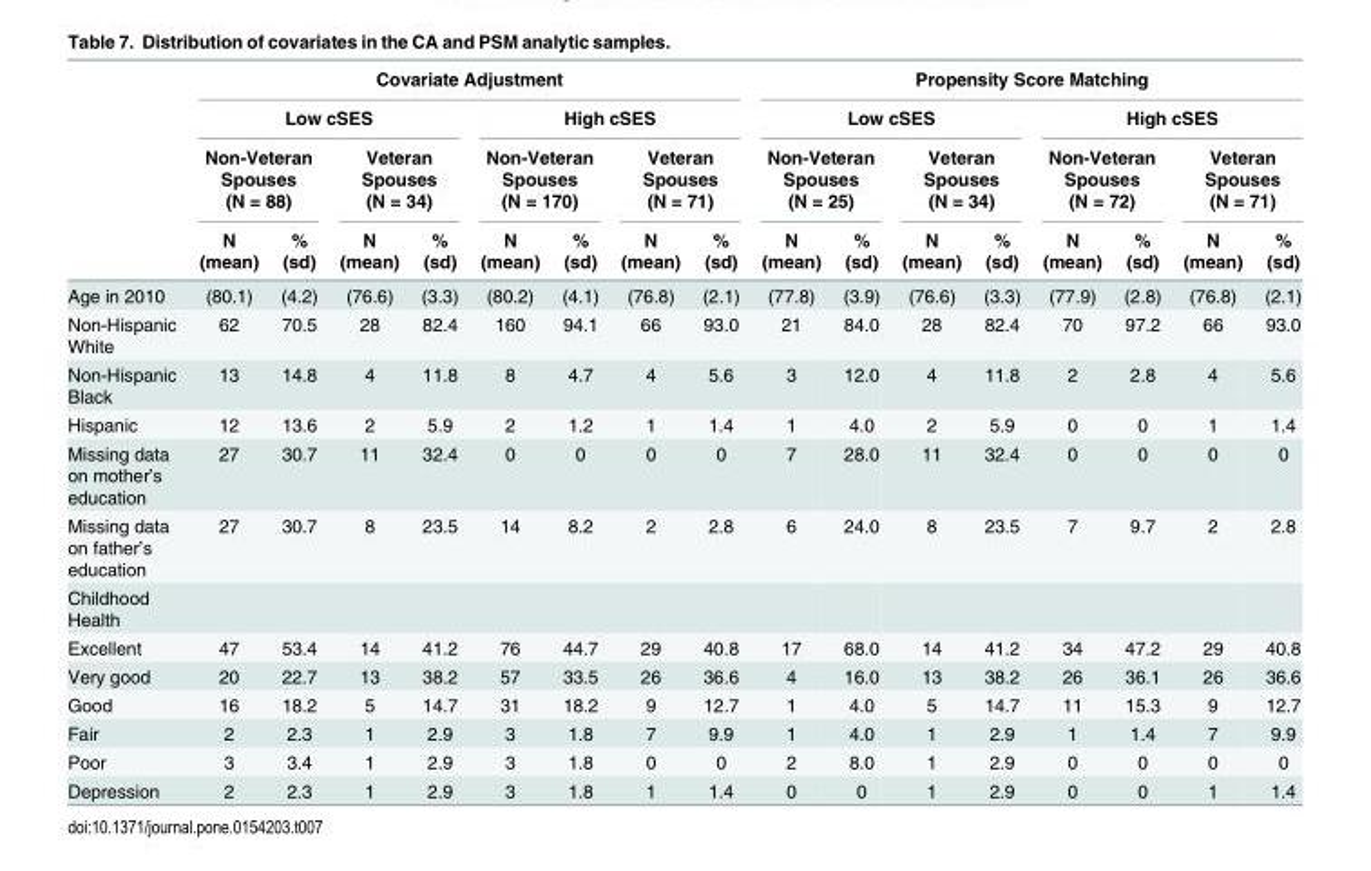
<table><thead><tr><td rowspan="4"></td><td colspan="8">Covariate Adjustment</td><td colspan="8">Propensity Score Matching</td></tr><tr><td colspan="4">Low cSES</td><td colspan="4">High cSES</td><td colspan="4">Low cSES</td><td colspan="4">High cSES</td></tr><tr><td colspan="2">Non-Veteran Spouses (N = 88)</td><td colspan="2">Veteran Spouses (N = 34)</td><td colspan="2">Non-Veteran Spouses (N = 170)</td><td colspan="2">Veteran Spouses (N = 71)</td><td colspan="2">Non-Veteran Spouses (N = 25)</td><td colspan="2">Veteran Spouses (N = 34)</td><td colspan="2">Non-Veteran Spouses (N = 72)</td><td colspan="2">Veteran Spouses (N = 71)</td></tr><tr><td>N (mean)</td><td>% (sd)</td><td>N (mean)</td><td>% (sd)</td><td>N (mean)</td><td>% (sd)</td><td>N (mean)</td><td>% (sd)</td><td>N (mean)</td><td>% (sd)</td><td>N (mean)</td><td>% (sd)</td><td>N (mean)</td><td>% (sd)</td><td>N (mean)</td><td>% (sd)</td></tr></thead><tbody><tr><td>Age in 2010</td><td>(80.1)</td><td>(4.2)</td><td>(76.6)</td><td>(3.3)</td><td>(80.2)</td><td>(4.1)</td><td>(76.8)</td><td>(2.1)</td><td>(77.8)</td><td>(3.9)</td><td>(76.6)</td><td>(3.3)</td><td>(77.9)</td><td>(2.8)</td><td>(76.8)</td><td>(2.1)</td></tr><tr><td>Non-Hispanic White</td><td>62</td><td>70.5</td><td>28</td><td>82.4</td><td>160</td><td>94.1</td><td>66</td><td>93.0</td><td>21</td><td>84.0</td><td>28</td><td>82.4</td><td>70</td><td>97.2</td><td>66</td><td>93.0</td></tr><tr><td>Non-Hispanic Black</td><td>13</td><td>14.8</td><td>4</td><td>11.8</td><td>8</td><td>4.7</td><td>4</td><td>5.6</td><td>3</td><td>12.0</td><td>4</td><td>11.8</td><td>2</td><td>2.8</td><td>4</td><td>5.6</td></tr><tr><td>Hispanic</td><td>12</td><td>13.6</td><td>2</td><td>5.9</td><td>2</td><td>1.2</td><td>1</td><td>1.4</td><td>1</td><td>4.0</td><td>2</td><td>5.9</td><td>0</td><td>0</td><td>1</td><td>1.4</td></tr><tr><td>Missing data on mother’s education</td><td>27</td><td>30.7</td><td>11</td><td>32.4</td><td>0</td><td>0</td><td>0</td><td>0</td><td>7</td><td>28.0</td><td>11</td><td>32.4</td><td>0</td><td>0</td><td>0</td><td>0</td></tr><tr><td>Missing data on father’s education</td><td>27</td><td>30.7</td><td>8</td><td>23.5</td><td>14</td><td>8.2</td><td>2</td><td>2.8</td><td>6</td><td>24.0</td><td>8</td><td>23.5</td><td>7</td><td>9.7</td><td>2</td><td>2.8</td></tr><tr><td colspan="17">Childhood Health</td></tr><tr><td>Excellent</td><td>47</td><td>53.4</td><td>14</td><td>41.2</td><td>76</td><td>44.7</td><td>29</td><td>40.8</td><td>17</td><td>68.0</td><td>14</td><td>41.2</td><td>34</td><td>47.2</td><td>29</td><td>40.8</td></tr><tr><td>Very good</td><td>20</td><td>22.7</td><td>13</td><td>38.2</td><td>57</td><td>33.5</td><td>26</td><td>36.6</td><td>4</td><td>16.0</td><td>13</td><td>38.2</td><td>26</td><td>36.1</td><td>26</td><td>36.6</td></tr><tr><td>Good</td><td>16</td><td>18.2</td><td>5</td><td>14.7</td><td>31</td><td>18.2</td><td>9</td><td>12.7</td><td>1</td><td>4.0</td><td>5</td><td>14.7</td><td>11</td><td>15.3</td><td>9</td><td>12.7</td></tr><tr><td>Fair</td><td>2</td><td>2.3</td><td>1</td><td>2.9</td><td>3</td><td>1.8</td><td>7</td><td>9.9</td><td>1</td><td>4.0</td><td>1</td><td>2.9</td><td>1</td><td>1.4</td><td>7</td><td>9.9</td></tr><tr><td>Poor</td><td>3</td><td>3.4</td><td>1</td><td>2.9</td><td>3</td><td>1.8</td><td>0</td><td>0</td><td>2</td><td>8.0</td><td>1</td><td>2.9</td><td>0</td><td>0</td><td>0</td><td>0</td></tr><tr><td>Depression</td><td>2</td><td>2.3</td><td>1</td><td>2.9</td><td>3</td><td>1.8</td><td>1</td><td>1.4</td><td>0</td><td>0</td><td>1</td><td>2.9</td><td>0</td><td>0</td><td>1</td><td>1.4</td></tr></tbody></table>